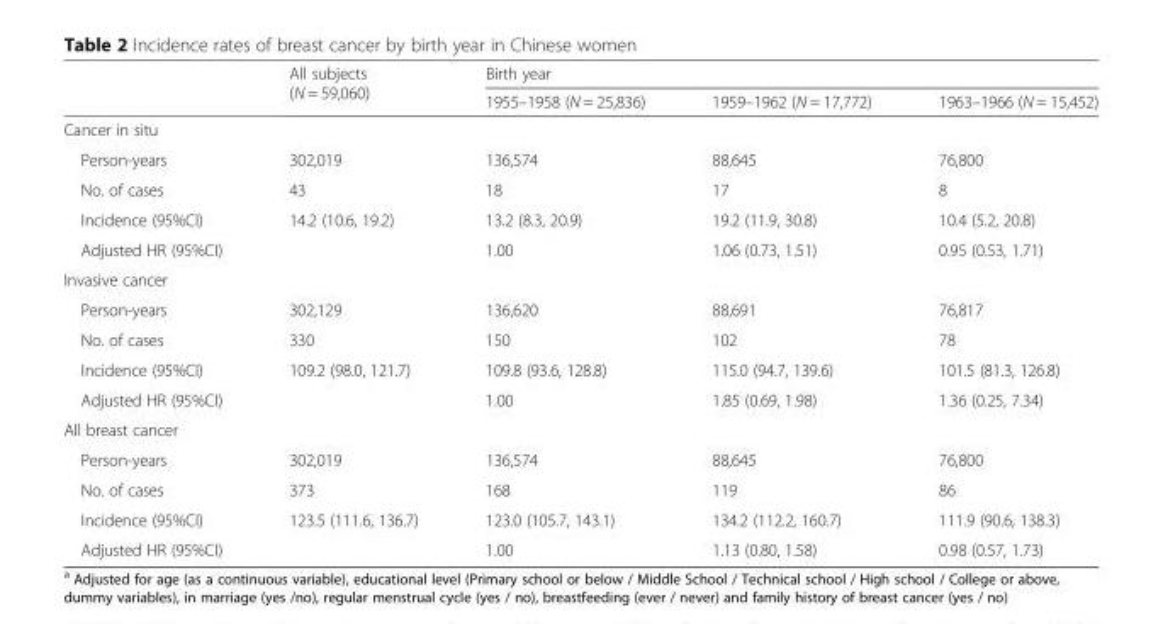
<table><thead><tr><td rowspan="2"></td><td rowspan="2">All subjects (N = 59,060)</td><td colspan="3">Birth year</td></tr><tr><td>1955–1958 (N = 25,836)</td><td>1959–1962 (N = 17,772)</td><td>1963–1966 (N = 15,452)</td></tr></thead><tbody><tr><td colspan="5">Cancer in situ</td></tr><tr><td>Person-years</td><td>302,019</td><td>136,574</td><td>88,645</td><td>76,800</td></tr><tr><td>No. of cases</td><td>43</td><td>18</td><td>17</td><td>8</td></tr><tr><td>Incidence (95%CI)</td><td>14.2 (10.6, 19.2)</td><td>13.2 (8.3, 20.9)</td><td>19.2 (11.9, 30.8)</td><td>10.4 (5.2, 20.8)</td></tr><tr><td>Adjusted HR (95%CI)</td><td></td><td>1.00</td><td>1.06 (0.73, 1.51)</td><td>0.95 (0.53, 1.71)</td></tr><tr><td colspan="5">Invasive cancer</td></tr><tr><td>Person-years</td><td>302,129</td><td>136,620</td><td>88,691</td><td>76,817</td></tr><tr><td>No. of cases</td><td>330</td><td>150</td><td>102</td><td>78</td></tr><tr><td>Incidence (95%CI)</td><td>109.2 (98.0, 121.7)</td><td>109.8 (93.6, 128.8)</td><td>115.0 (94.7, 139.6)</td><td>101.5 (81.3, 126.8)</td></tr><tr><td>Adjusted HR (95%CI)</td><td></td><td>1.00</td><td>1.85 (0.69, 1.98)</td><td>1.36 (0.25, 7.34)</td></tr><tr><td colspan="5">All breast cancer</td></tr><tr><td>Person-years</td><td>302,019</td><td>136,574</td><td>88,645</td><td>76,800</td></tr><tr><td>No. of cases</td><td>373</td><td>168</td><td>119</td><td>86</td></tr><tr><td>Incidence (95%CI)</td><td>123.5 (111.6, 136.7)</td><td>123.0 (105.7, 143.1)</td><td>134.2 (112.2, 160.7)</td><td>111.9 (90.6, 138.3)</td></tr><tr><td>Adjusted HR (95%CI)</td><td></td><td>1.00</td><td>1.13 (0.80, 1.58)</td><td>0.98 (0.57, 1.73)</td></tr></tbody></table>